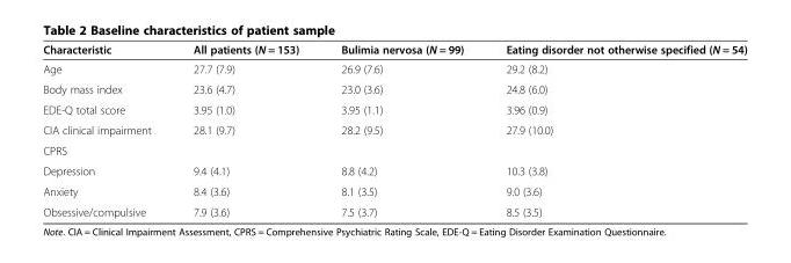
<table><thead><tr><td>Characteristic</td><td>All patients (N = 153)</td><td>Bulimia nervosa (N = 99)</td><td>Eating disorder not otherwise specified (N = 54)</td></tr></thead><tbody><tr><td>Age</td><td>27.7 (7.9)</td><td>26.9 (7.6)</td><td>29.2 (8.2)</td></tr><tr><td>Body mass index</td><td>23.6 (4.7)</td><td>23.0 (3.6)</td><td>24.8 (6.0)</td></tr><tr><td>EDE-Q total score</td><td>3.95 (1.0)</td><td>3.95 (1.1)</td><td>3.96 (0.9)</td></tr><tr><td>CIA clinical impairment</td><td>28.1 (9.7)</td><td>28.2 (9.5)</td><td>27.9 (10.0)</td></tr><tr><td colspan="4">CPRS</td></tr><tr><td>Depression</td><td>9.4 (4.1)</td><td>8.8 (4.2)</td><td>10.3 (3.8)</td></tr><tr><td>Anxiety</td><td>8.4 (3.6)</td><td>8.1 (3.5)</td><td>9.0 (3.6)</td></tr><tr><td>Obsessive/compulsive</td><td>7.9 (3.6)</td><td>7.5 (3.7)</td><td>8.5 (3.5)</td></tr></tbody></table>